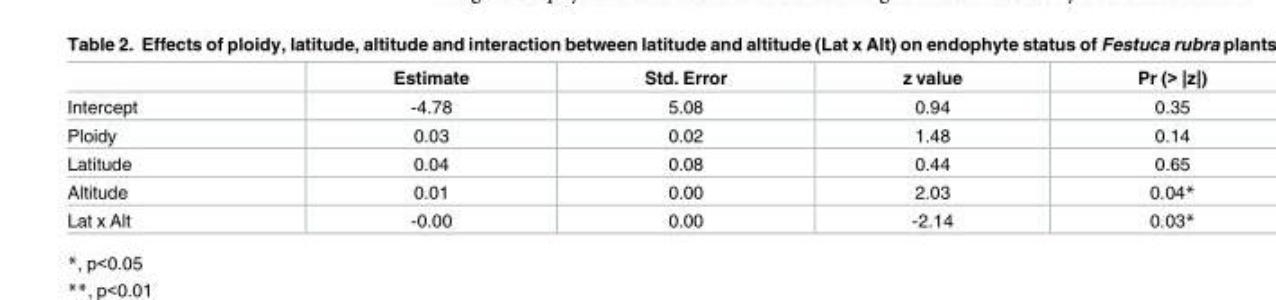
<table><thead><tr><td></td><td>Estimate</td><td>Std. Error</td><td>z value</td><td>Pr (&gt; |z|)</td></tr></thead><tbody><tr><td>Intercept</td><td>-4.78</td><td>5.08</td><td>0.94</td><td>0.35</td></tr><tr><td>Ploidy</td><td>0.03</td><td>0.02</td><td>1.48</td><td>0.14</td></tr><tr><td>Latitude</td><td>0.04</td><td>0.08</td><td>0.44</td><td>0.65</td></tr><tr><td>Altitude</td><td>0.01</td><td>0.00</td><td>2.03</td><td>0.04*</td></tr><tr><td>Lat x Alt</td><td>-0.00</td><td>0.00</td><td>-2.14</td><td>0.03*</td></tr></tbody></table>